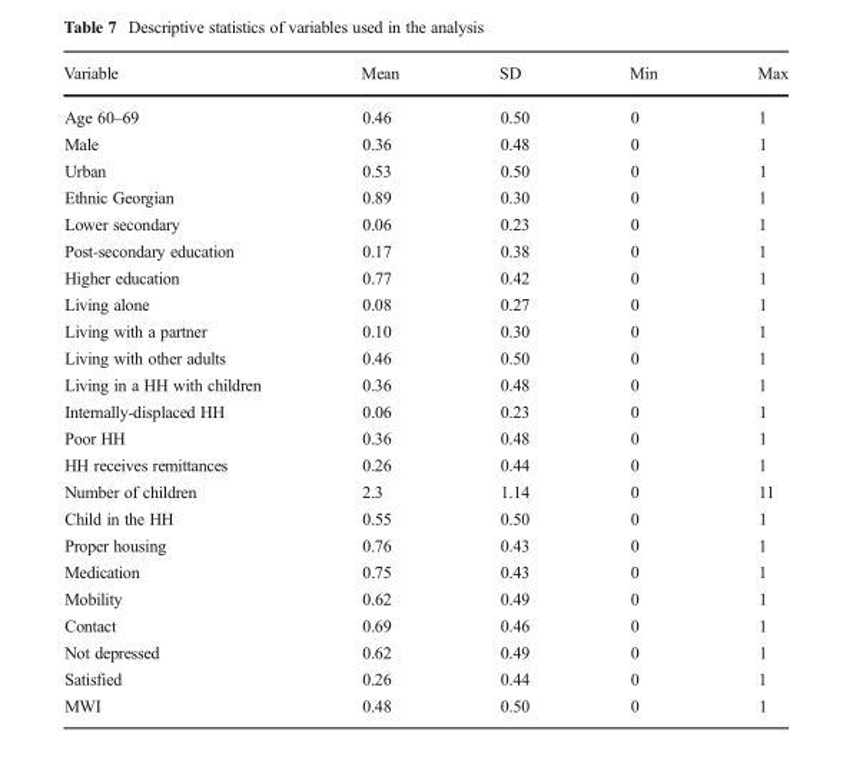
<table><thead><tr><td>Variable</td><td>Mean</td><td>SD</td><td>Min</td><td>Max</td></tr></thead><tbody><tr><td>Age 60–69</td><td>0.46</td><td>0.50</td><td>0</td><td>1</td></tr><tr><td>Male</td><td>0.36</td><td>0.48</td><td>0</td><td>1</td></tr><tr><td>Urban</td><td>0.53</td><td>0.50</td><td>0</td><td>1</td></tr><tr><td>Ethnic Georgian</td><td>0.89</td><td>0.30</td><td>0</td><td>1</td></tr><tr><td>Lower secondary</td><td>0.06</td><td>0.23</td><td>0</td><td>1</td></tr><tr><td>Post-secondary education</td><td>0.17</td><td>0.38</td><td>0</td><td>1</td></tr><tr><td>Higher education</td><td>0.77</td><td>0.42</td><td>0</td><td>1</td></tr><tr><td>Living alone</td><td>0.08</td><td>0.27</td><td>0</td><td>1</td></tr><tr><td>Living with a partner</td><td>0.10</td><td>0.30</td><td>0</td><td>1</td></tr><tr><td>Living with other adults</td><td>0.46</td><td>0.50</td><td>0</td><td>1</td></tr><tr><td>Living in a HH with children</td><td>0.36</td><td>0.48</td><td>0</td><td>1</td></tr><tr><td>Internally-displaced HH</td><td>0.06</td><td>0.23</td><td>0</td><td>1</td></tr><tr><td>Poor HH</td><td>0.36</td><td>0.48</td><td>0</td><td>1</td></tr><tr><td>HH receives remittances</td><td>0.26</td><td>0.44</td><td>0</td><td>1</td></tr><tr><td>Number of children</td><td>2.3</td><td>1.14</td><td>0</td><td>11</td></tr><tr><td>Child in the HH</td><td>0.55</td><td>0.50</td><td>0</td><td>1</td></tr><tr><td>Proper housing</td><td>0.76</td><td>0.43</td><td>0</td><td>1</td></tr><tr><td>Medication</td><td>0.75</td><td>0.43</td><td>0</td><td>1</td></tr><tr><td>Mobility</td><td>0.62</td><td>0.49</td><td>0</td><td>1</td></tr><tr><td>Contact</td><td>0.69</td><td>0.46</td><td>0</td><td>1</td></tr><tr><td>Not depressed</td><td>0.62</td><td>0.49</td><td>0</td><td>1</td></tr><tr><td>Satisfied</td><td>0.26</td><td>0.44</td><td>0</td><td>1</td></tr><tr><td>MWI</td><td>0.48</td><td>0.50</td><td>0</td><td>1</td></tr></tbody></table>